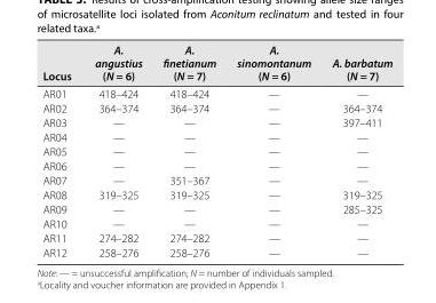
<table><thead><tr><td>Locus</td><td>A. angustius (N = 6)</td><td>A. finetianum (N = 7)</td><td>A. sinomontanum (N = 6)</td><td>A. barbatum (N = 7)</td></tr></thead><tbody><tr><td>AR01</td><td>418–424</td><td>418–424</td><td>—</td><td>—</td></tr><tr><td>AR02</td><td>364–374</td><td>364–374</td><td>—</td><td>364–374</td></tr><tr><td>AR03</td><td>—</td><td>—</td><td>—</td><td>397–411</td></tr><tr><td>AR04</td><td>—</td><td>—</td><td>—</td><td>—</td></tr><tr><td>AR05</td><td>—</td><td>—</td><td>—</td><td>—</td></tr><tr><td>AR06</td><td>—</td><td>—</td><td>—</td><td>—</td></tr><tr><td>AR07</td><td>—</td><td>351–367</td><td>—</td><td>—</td></tr><tr><td>AR08</td><td>319–325</td><td>319–325</td><td>—</td><td>319–325</td></tr><tr><td>AR09</td><td>—</td><td>—</td><td>—</td><td>285–325</td></tr><tr><td>AR10</td><td>—</td><td>—</td><td>—</td><td>—</td></tr><tr><td>AR11</td><td>274–282</td><td>274–282</td><td>—</td><td>—</td></tr><tr><td>AR12</td><td>258–276</td><td>258–276</td><td>—</td><td>—</td></tr></tbody></table>